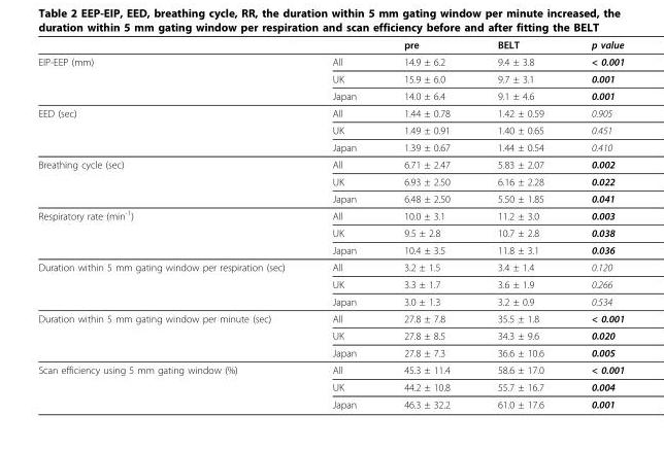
<table><thead><tr><td></td><td></td><td>pre</td><td>BELT</td><td>p value</td></tr></thead><tbody><tr><td rowspan="3">EIP-EEP (mm)</td><td>All</td><td>14.9 ± 6.2</td><td>9.4 ± 3.8</td><td>&lt; 0.001</td></tr><tr><td>UK</td><td>15.9 ± 6.0</td><td>9.7 ± 3.1</td><td>0.001</td></tr><tr><td>Japan</td><td>14.0 ± 6.4</td><td>9.1 ± 4.6</td><td>0.001</td></tr><tr><td rowspan="3">EED (sec)</td><td>All</td><td>1.44 ± 0.78</td><td>1.42 ± 0.59</td><td>0.905</td></tr><tr><td>UK</td><td>1.49 ± 0.91</td><td>1.40 ± 0.65</td><td>0.451</td></tr><tr><td>Japan</td><td>1.39 ± 0.67</td><td>1.44 ± 0.54</td><td>0.410</td></tr><tr><td rowspan="3">Breathing cycle (sec)</td><td>All</td><td>6.71 ± 2.47</td><td>5.83 ± 2.07</td><td>0.002</td></tr><tr><td>UK</td><td>6.93 ± 2.50</td><td>6.16 ± 2.28</td><td>0.022</td></tr><tr><td>Japan</td><td>6.48 ± 2.50</td><td>5.50 ± 1.85</td><td>0.041</td></tr><tr><td rowspan="3">Respiratory rate (min<sup>-1</sup>)</td><td>All</td><td>10.0 ± 3.1</td><td>11.2 ± 3.0</td><td>0.003</td></tr><tr><td>UK</td><td>9.5 ± 2.8</td><td>10.7 ± 2.8</td><td>0.038</td></tr><tr><td>Japan</td><td>10.4 ± 3.5</td><td>11.8 ± 3.1</td><td>0.036</td></tr><tr><td rowspan="3">Duration within 5 mm gating window per respiration (sec)</td><td>All</td><td>3.2 ± 1.5</td><td>3.4 ± 1.4</td><td>0.120</td></tr><tr><td>UK</td><td>3.3 ± 1.7</td><td>3.6 ± 1.9</td><td>0.266</td></tr><tr><td>Japan</td><td>3.0 ± 1.3</td><td>3.2 ± 0.9</td><td>0.534</td></tr><tr><td rowspan="3">Duration within 5 mm gating window per minute (sec)</td><td>All</td><td>27.8 ± 7.8</td><td>35.5 ± 1.8</td><td>&lt; 0.001</td></tr><tr><td>UK</td><td>27.8 ± 8.5</td><td>34.3 ± 9.6</td><td>0.020</td></tr><tr><td>Japan</td><td>27.8 ± 7.3</td><td>36.6 ± 10.6</td><td>0.005</td></tr><tr><td rowspan="3">Scan efficiency using 5 mm gating window (%)</td><td>All</td><td>45.3 ± 11.4</td><td>58.6 ± 17.0</td><td>&lt; 0.001</td></tr><tr><td>UK</td><td>44.2 ± 10.8</td><td>55.7 ± 16.7</td><td>0.004</td></tr><tr><td>Japan</td><td>46.3 ± 32.2</td><td>61.0 ± 17.6</td><td>0.001</td></tr></tbody></table>